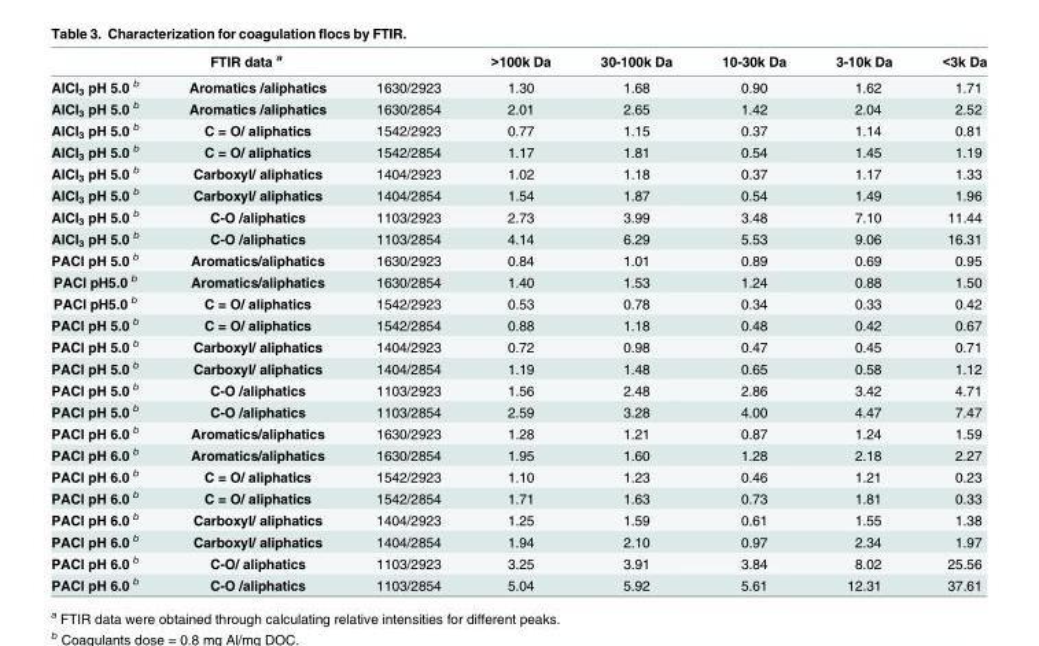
<table><thead><tr><td colspan="3">FTIR data <sup>a</sup></td><td rowspan="2">&gt;100k Da 1.30</td><td rowspan="2">30-100k Da 1.68</td><td rowspan="2">10-30k Da 0.90</td><td rowspan="2">3-10k Da 1.62</td><td rowspan="2">&lt;3k Da 1.71</td></tr><tr><td>AlCl<sub>3</sub> pH 5.0 <sup>b</sup></td><td>Aromatics /aliphatics</td><td>1630/2923</td></tr></thead><tbody><tr><td>AlCl<sub>3</sub> pH 5.0 <sup>b</sup></td><td>Aromatics /aliphatics</td><td>1630/2854</td><td>2.01</td><td>2.65</td><td>1.42</td><td>2.04</td><td>2.52</td></tr><tr><td>AlCl<sub>3</sub> pH 5.0 <sup>b</sup></td><td>C = O/ aliphatics</td><td>1542/2923</td><td>0.77</td><td>1.15</td><td>0.37</td><td>1.14</td><td>0.81</td></tr><tr><td>AlCl<sub>3</sub> pH 5.0 <sup>b</sup></td><td>C = O/ aliphatics</td><td>1542/2854</td><td>1.17</td><td>1.81</td><td>0.54</td><td>1.45</td><td>1.19</td></tr><tr><td>AlCl<sub>3</sub> pH 5.0 <sup>b</sup></td><td>Carboxyl/ aliphatics</td><td>1404/2923</td><td>1.02</td><td>1.18</td><td>0.37</td><td>1.17</td><td>1.33</td></tr><tr><td>AlCl<sub>3</sub> pH 5.0 <sup>b</sup></td><td>Carboxyl/ aliphatics</td><td>1404/2854</td><td>1.54</td><td>1.87</td><td>0.54</td><td>1.49</td><td>1.96</td></tr><tr><td>AlCl<sub>3</sub> pH 5.0 <sup>b</sup></td><td>C-O /aliphatics</td><td>1103/2923</td><td>2.73</td><td>3.99</td><td>3.48</td><td>7.10</td><td>11.44</td></tr><tr><td>AlCl<sub>3</sub> pH 5.0 <sup>b</sup></td><td>C-O /aliphatics</td><td>1103/2854</td><td>4.14</td><td>6.29</td><td>5.53</td><td>9.06</td><td>16.31</td></tr><tr><td>PACl pH 5.0 <sup>b</sup></td><td>Aromatics/aliphatics</td><td>1630/2923</td><td>0.84</td><td>1.01</td><td>0.89</td><td>0.69</td><td>0.95</td></tr><tr><td>PACl pH5.0 <sup>b</sup></td><td>Aromatics/aliphatics</td><td>1630/2854</td><td>1.40</td><td>1.53</td><td>1.24</td><td>0.88</td><td>1.50</td></tr><tr><td>PACl pH5.0 <sup>b</sup></td><td>C = O/ aliphatics</td><td>1542/2923</td><td>0.53</td><td>0.78</td><td>0.34</td><td>0.33</td><td>0.42</td></tr><tr><td>PACl pH 5.0 <sup>b</sup></td><td>C = O/ aliphatics</td><td>1542/2854</td><td>0.88</td><td>1.18</td><td>0.48</td><td>0.42</td><td>0.67</td></tr><tr><td>PACl pH 5.0 <sup>b</sup></td><td>Carboxyl/ aliphatics</td><td>1404/2923</td><td>0.72</td><td>0.98</td><td>0.47</td><td>0.45</td><td>0.71</td></tr><tr><td>PACl pH 5.0 <sup>b</sup></td><td>Carboxyl/ aliphatics</td><td>1404/2854</td><td>1.19</td><td>1.48</td><td>0.65</td><td>0.58</td><td>1.12</td></tr><tr><td>PACl pH 5.0 <sup>b</sup></td><td>C-O /aliphatics</td><td>1103/2923</td><td>1.56</td><td>2.48</td><td>2.86</td><td>3.42</td><td>4.71</td></tr><tr><td>PACl pH 5.0 <sup>b</sup></td><td>C-O /aliphatics</td><td>1103/2854</td><td>2.59</td><td>3.28</td><td>4.00</td><td>4.47</td><td>7.47</td></tr><tr><td>PACl pH 6.0 <sup>b</sup></td><td>Aromatics/aliphatics</td><td>1630/2923</td><td>1.28</td><td>1.21</td><td>0.87</td><td>1.24</td><td>1.59</td></tr><tr><td>PACl pH 6.0 <sup>b</sup></td><td>Aromatics/aliphatics</td><td>1630/2854</td><td>1.95</td><td>1.60</td><td>1.28</td><td>2.18</td><td>2.27</td></tr><tr><td>PACl pH 6.0 <sup>b</sup></td><td>C = O/ aliphatics</td><td>1542/2923</td><td>1.10</td><td>1.23</td><td>0.46</td><td>1.21</td><td>0.23</td></tr><tr><td>PACl pH 6.0 <sup>b</sup></td><td>C = O/ aliphatics</td><td>1542/2854</td><td>1.71</td><td>1.63</td><td>0.73</td><td>1.81</td><td>0.33</td></tr><tr><td>PACl pH 6.0 <sup>b</sup></td><td>Carboxyl/ aliphatics</td><td>1404/2923</td><td>1.25</td><td>1.59</td><td>0.61</td><td>1.55</td><td>1.38</td></tr><tr><td>PACl pH 6.0 <sup>b</sup></td><td>Carboxyl/ aliphatics</td><td>1404/2854</td><td>1.94</td><td>2.10</td><td>0.97</td><td>2.34</td><td>1.97</td></tr><tr><td>PACl pH 6.0 <sup>b</sup></td><td>C-O/ aliphatics</td><td>1103/2923</td><td>3.25</td><td>3.91</td><td>3.84</td><td>8.02</td><td>25.56</td></tr><tr><td>PACl pH 6.0 <sup>b</sup></td><td>C-O /aliphatics</td><td>1103/2854</td><td>5.04</td><td>5.92</td><td>5.61</td><td>12.31</td><td>37.61</td></tr></tbody></table>